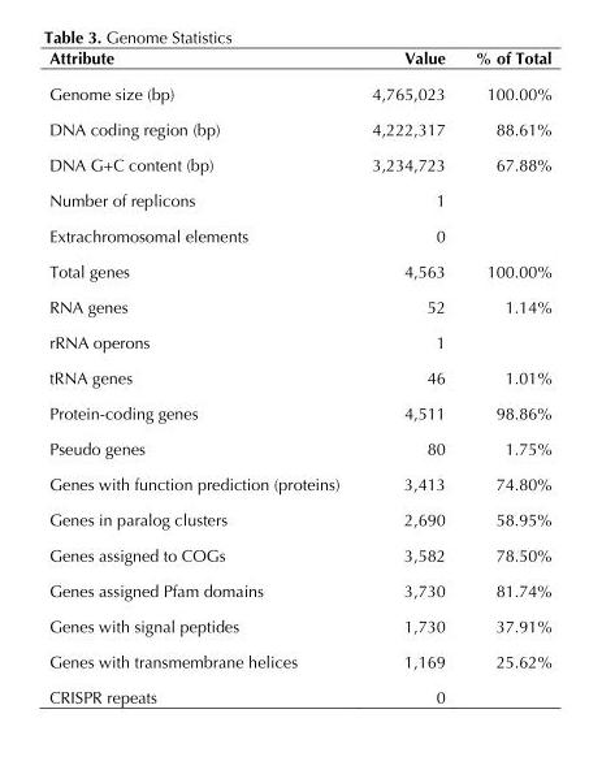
<table><thead><tr><td>Attribute</td><td>Value</td><td>% of Total</td></tr></thead><tbody><tr><td>Genome size (bp)</td><td>4,765,023</td><td>100.00%</td></tr><tr><td>DNA coding region (bp)</td><td>4,222,317</td><td>88.61%</td></tr><tr><td>DNA G+C content (bp)</td><td>3,234,723</td><td>67.88%</td></tr><tr><td>Number of replicons</td><td>1</td><td></td></tr><tr><td>Extrachromosomal elements</td><td>0</td><td></td></tr><tr><td>Total genes</td><td>4,563</td><td>100.00%</td></tr><tr><td>RNA genes</td><td>52</td><td>1.14%</td></tr><tr><td>rRNA operons</td><td>1</td><td></td></tr><tr><td>tRNA genes</td><td>46</td><td>1.01%</td></tr><tr><td>Protein-coding genes</td><td>4,511</td><td>98.86%</td></tr><tr><td>Pseudo genes</td><td>80</td><td>1.75%</td></tr><tr><td>Genes with function prediction (proteins)</td><td>3,413</td><td>74.80%</td></tr><tr><td>Genes in paralog clusters</td><td>2,690</td><td>58.95%</td></tr><tr><td>Genes assigned to COGs</td><td>3,582</td><td>78.50%</td></tr><tr><td>Genes assigned Pfam domains</td><td>3,730</td><td>81.74%</td></tr><tr><td>Genes with signal peptides</td><td>1,730</td><td>37.91%</td></tr><tr><td>Genes with transmembrane helices</td><td>1,169</td><td>25.62%</td></tr><tr><td>CRISPR repeats</td><td>0</td><td></td></tr></tbody></table>